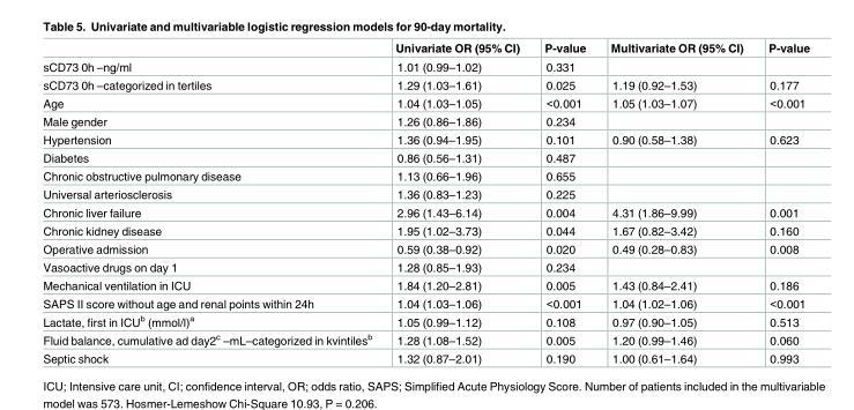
<table><thead><tr><td></td><td>Univariate OR (95% CI)</td><td>P-value</td><td>Multivariate OR (95% CI)</td><td>P-value</td></tr></thead><tbody><tr><td>sCD73 0h –ng/ml</td><td>1.01 (0.99–1.02)</td><td>0.331</td><td></td><td></td></tr><tr><td>sCD73 0h –categorized in tertiles</td><td>1.29 (1.03–1.61)</td><td>0.025</td><td>1.19 (0.92–1.53)</td><td>0.177</td></tr><tr><td>Age</td><td>1.04 (1.03–1.05)</td><td>&lt;0.001</td><td>1.05 (1.03–1.07)</td><td>&lt;0.001</td></tr><tr><td>Male gender</td><td>1.26 (0.86–1.86)</td><td>0.234</td><td></td><td></td></tr><tr><td>Hypertension</td><td>1.36 (0.94–1.95)</td><td>0.101</td><td>0.90 (0.58–1.38)</td><td>0.623</td></tr><tr><td>Diabetes</td><td>0.86 (0.56–1.31)</td><td>0.487</td><td></td><td></td></tr><tr><td>Chronic obstructive pulmonary disease</td><td>1.13 (0.66–1.96)</td><td>0.655</td><td></td><td></td></tr><tr><td>Universal arteriosclerosis</td><td>1.36 (0.83–1.23)</td><td>0.225</td><td></td><td></td></tr><tr><td>Chronic liver failure</td><td>2.96 (1.43–6.14)</td><td>0.004</td><td>4.31 (1.86–9.99)</td><td>0.001</td></tr><tr><td>Chronic kidney disease</td><td>1.95 (1.02–3.73)</td><td>0.044</td><td>1.67 (0.82–3.42)</td><td>0.160</td></tr><tr><td>Operative admission</td><td>0.59 (0.38–0.92)</td><td>0.020</td><td>0.49 (0.28–0.83)</td><td>0.008</td></tr><tr><td>Vasoactive drugs on day 1</td><td>1.28 (0.85–1.93)</td><td>0.234</td><td></td><td></td></tr><tr><td>Mechanical ventilation in ICU</td><td>1.84 (1.20–2.81)</td><td>0.005</td><td>1.43 (0.84–2.41)</td><td>0.186</td></tr><tr><td>SAPS II score without age and renal points within 24h</td><td>1.04 (1.03–1.06)</td><td>&lt;0.001</td><td>1.04 (1.02–1.06)</td><td>&lt;0.001</td></tr><tr><td>Lactate, first in ICU<sup>b</sup> (mmol/l)<sup>a</sup></td><td>1.05 (0.99–1.12)</td><td>0.108</td><td>0.97 (0.90–1.05)</td><td>0.513</td></tr><tr><td>Fluid balance, cumulative ad day2<sup>c</sup> –mL–categorized in kvintiles<sup>b</sup></td><td>1.28 (1.08–1.52)</td><td>0.005</td><td>1.20 (0.99–1.46)</td><td>0.060</td></tr><tr><td>Septic shock</td><td>1.32 (0.87–2.01)</td><td>0.190</td><td>1.00 (0.61–1.64)</td><td>0.993</td></tr></tbody></table>